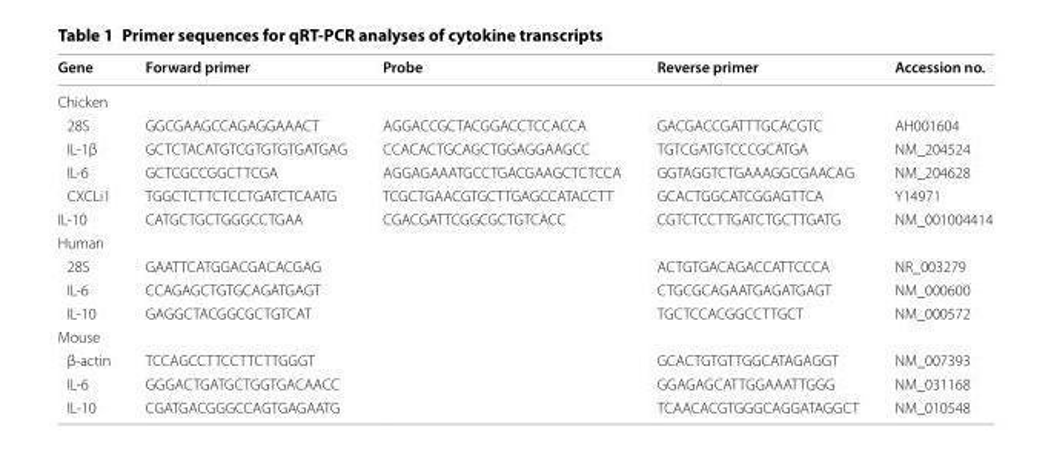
<table><thead><tr><td>Gene</td><td>Forward primer</td><td>Probe</td><td>Reverse primer</td><td>Accession no.</td></tr></thead><tbody><tr><td colspan="5">Chicken</td></tr><tr><td>28S</td><td>GGCGAAGCCAGAGGAAACT</td><td>AGGACCGCTACGGACCTCCACCA</td><td>GACGACCGATTTGCACGTC</td><td>AH001604</td></tr><tr><td>IL-1β</td><td>GCTCTACATGTCGTGTGTGATGAG</td><td>CCACACTGCAGCTGGAGGAAGCC</td><td>TGTCGATGTCCCGCATGA</td><td>NM_204524</td></tr><tr><td>IL-6</td><td>GCTCGCCGGCTTCGA</td><td>AGGAGAAATGCCTGACGAAGCTCTCCA</td><td>GGTAGGTCTGAAAGGCGAACAG</td><td>NM_204628</td></tr><tr><td>CXCLi1</td><td>TGGCTCTTCTCCTGATCTCAATG</td><td>TCGCTGAACGTGCTTGAGCCATACCTT</td><td>GCACTGGCATCGGAGTTCA</td><td>Y14971</td></tr><tr><td>IL-10</td><td>CATGCTGCTGGGCCTGAA</td><td>CGACGATTCGGCGCTGTCACC</td><td>CGTCTCCTTGATCTGCTTGATG</td><td>NM_001004414</td></tr><tr><td colspan="5">Human</td></tr><tr><td>28S</td><td>GAATTCATGGACGACACGAG</td><td></td><td>ACTGTGACAGACCATTCCCA</td><td>NR_003279</td></tr><tr><td>IL-6</td><td>CCAGAGCTGTGCAGATGAGT</td><td></td><td>CTGCGCAGAATGAGATGAGT</td><td>NM_000600</td></tr><tr><td>IL-10</td><td>GAGGCTACGGCGCTGTCAT</td><td></td><td>TGCTCCACGGCCTTGCT</td><td>NM_000572</td></tr><tr><td colspan="5">Mouse</td></tr><tr><td>β-actin</td><td>TCCAGCCTTCCTTCTTGGGT</td><td></td><td>GCACTGTGTTGGCATAGAGGT</td><td>NM_007393</td></tr><tr><td>IL-6</td><td>GGGACTGATGCTGGTGACAACC</td><td></td><td>GGAGAGCATTGGAAATTGGG</td><td>NM_031168</td></tr><tr><td>IL-10</td><td>CGATGACGGGCCAGTGAGAATG</td><td></td><td>TCAACACGTGGGCAGGATAGGCT</td><td>NM_010548</td></tr></tbody></table>